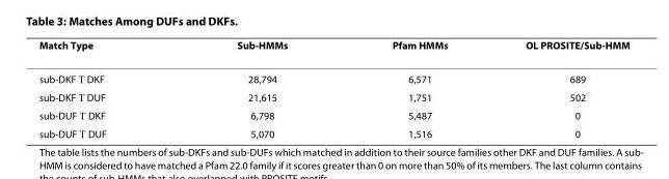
<table><thead><tr><td>Match Type</td><td>Sub-HMMs</td><td>Pfam HMMs</td><td>OL PROSITE/Sub-HMM</td></tr></thead><tbody><tr><td>sub-DKF → DKF</td><td>28,794</td><td>6,571</td><td>689</td></tr><tr><td>sub-DKF → DUF</td><td>21,615</td><td>1,751</td><td>502</td></tr><tr><td>sub-DUF → DKF</td><td>6,798</td><td>5,487</td><td>0</td></tr><tr><td>sub-DUF → DUF</td><td>5,070</td><td>1,516</td><td>0</td></tr></tbody></table>